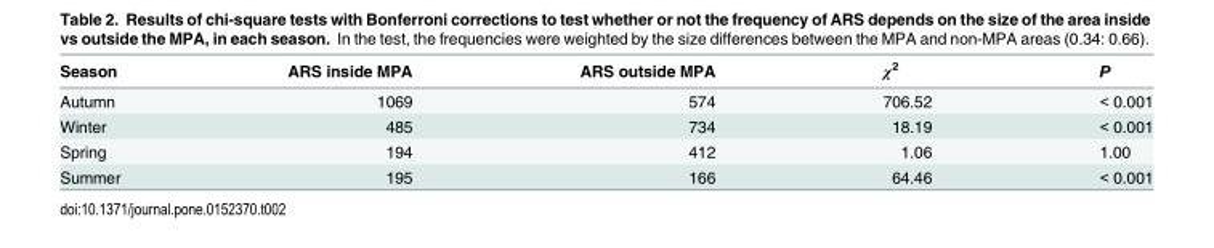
<table><thead><tr><td>Season</td><td>ARS inside MPA</td><td>ARS outside MPA</td><td>χ<sup>2</sup></td><td>P</td></tr></thead><tbody><tr><td>Autumn</td><td>1069</td><td>574</td><td>706.52</td><td>&lt; 0.001</td></tr><tr><td>Winter</td><td>485</td><td>734</td><td>18.19</td><td>&lt; 0.001</td></tr><tr><td>Spring</td><td>194</td><td>412</td><td>1.06</td><td>1.00</td></tr><tr><td>Summer</td><td>195</td><td>166</td><td>64.46</td><td>&lt; 0.001</td></tr></tbody></table>